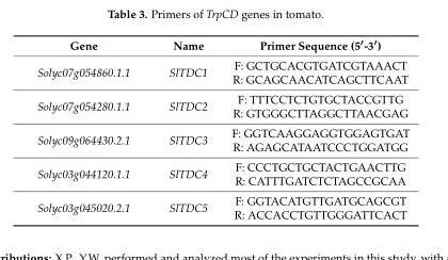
<table><thead><tr><td>Gene</td><td>Name</td><td>Primer Sequence (5′-3′)</td></tr></thead><tbody><tr><td>Solyc07g054860.1.1</td><td>SlTDC1</td><td>F: GCTGCACGTGATCGTAAACT R: GCAGCAACATCAGCTTCAAT</td></tr><tr><td>Solyc07g054280.1.1</td><td>SlTDC2</td><td>F: TTTCCTCTGTGCTACCGTTG R: GTGGGCTTAGGCTTAACGAG</td></tr><tr><td>Solyc09g064430.2.1</td><td>SlTDC3</td><td>F: GGTCAAGGAGGTGGAGTGAT R: AGAGCATAATCCCTGGATGG</td></tr><tr><td>Solyc03g044120.1.1</td><td>SlTDC4</td><td>F: CCCTGCTGCTACTGAACTTG R: CATTTGATCTCTAGCCGCAA</td></tr><tr><td>Solyc03g045020.2.1</td><td>SlTDC5</td><td>F: GGTACATGTTGATGCAGCGT R: ACCACCTGTTGGGATTCACT</td></tr></tbody></table>